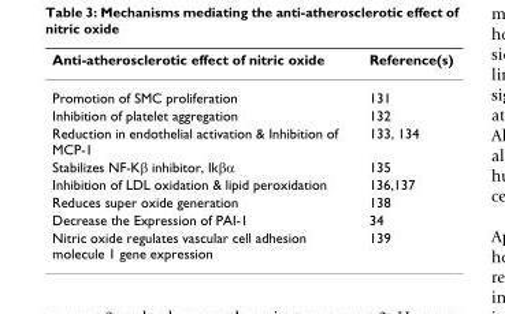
<table><thead><tr><td>Anti-atherosclerotic effect of nitric oxide</td><td>Reference(s)</td></tr></thead><tbody><tr><td>Promotion of SMC proliferation</td><td>131</td></tr><tr><td>Inhibition of platelet aggregation</td><td>132</td></tr><tr><td>Reduction in endothelial activation &amp; Inhibition of MCP-1</td><td>133, 134</td></tr><tr><td>Stabilizes NF-Kβ inhibitor, Ikβα</td><td>135</td></tr><tr><td>Inhibition of LDL oxidation &amp; lipid peroxidation</td><td>136,137</td></tr><tr><td>Reduces super oxide generation</td><td>138</td></tr><tr><td>Decrease the Expression of PAI-1</td><td>34</td></tr><tr><td>Nitric oxide regulates vascular cell adhesion molecule 1 gene expression</td><td>139</td></tr></tbody></table>